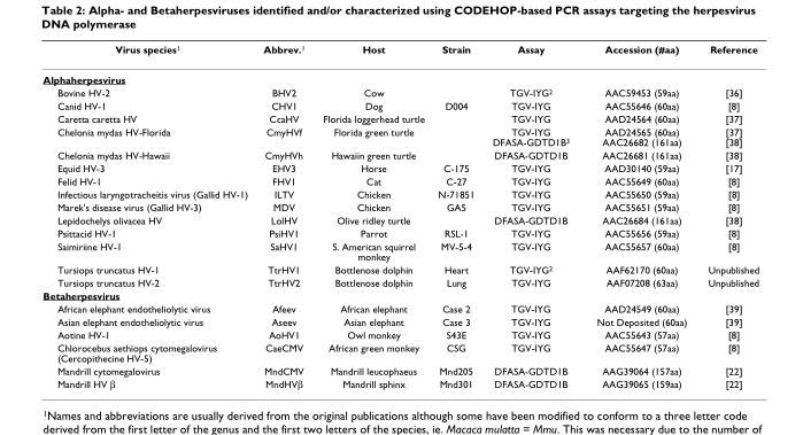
<table><thead><tr><td>Virus species<sup>1</sup></td><td>Abbrev.<sup>1</sup></td><td>Host</td><td>Strain</td><td>Assay</td><td>Accession (#aa)</td><td>Reference</td></tr></thead><tbody><tr><td colspan="7">Alphaherpesvirus</td></tr><tr><td>Bovine HV-2</td><td>BHV2</td><td>Cow</td><td></td><td>TGV-IYG<sup>2</sup></td><td>AAC59453 (59aa)</td><td>[36]</td></tr><tr><td>Canid HV-1</td><td>CHV1</td><td>Dog</td><td>D004</td><td>TGV-IYG</td><td>AAC55646 (60aa)</td><td>[8]</td></tr><tr><td>Caretta caretta HV</td><td>CcaHV</td><td>Florida loggerhead turtle</td><td></td><td>TGV-IYG</td><td>AAD24564 (60aa)</td><td>[37]</td></tr><tr><td>Chelonia mydas HV-Florida</td><td>CmyHVf</td><td>Florida green turtle</td><td></td><td>TGV-IYG DFASA-GDTD1B<sup>3</sup></td><td>AAD24565 (60aa) AAC26682 (161aa)</td><td>[37] [38]</td></tr><tr><td>Chelonia mydas HV-Hawaii</td><td>CmyHVh</td><td>Hawaiin green turtle</td><td></td><td>DFASA-GDTD1B</td><td>AAC26681 (161aa)</td><td>[38]</td></tr><tr><td>Equid HV-3</td><td>EHV3</td><td>Horse</td><td>C-175</td><td>TGV-IYG</td><td>AAD30140 (59aa)</td><td>[17]</td></tr><tr><td>Felid HV-1</td><td>FHV1</td><td>Cat</td><td>C-27</td><td>TGV-IYG</td><td>AAC55649 (60aa)</td><td>[8]</td></tr><tr><td>Infectious laryngotracheitis virus (Gallid HV-1)</td><td>ILTV</td><td>Chicken</td><td>N-71851</td><td>TGV-IYG</td><td>AAC55650 (59aa)</td><td>[8]</td></tr><tr><td>Marek&#x27;s disease virus (Gallid HV-3)</td><td>MDV</td><td>Chicken</td><td>GA5</td><td>TGV-IYG</td><td>AAC55651 (59aa)</td><td>[8]</td></tr><tr><td>Lepidochelys olivacea HV</td><td>LolHV</td><td>Olive ridley turtle</td><td></td><td>DFASA-GDTD1B</td><td>AAC26684 (161aa)</td><td>[38]</td></tr><tr><td>Psittacid HV-1</td><td>PsiHV1</td><td>Parrot</td><td>RSL-1</td><td>TGV-IYG</td><td>AAC55656 (59aa)</td><td>[8]</td></tr><tr><td>Saimiriine HV-1</td><td>SaHV1</td><td>S. American squirrel monkey</td><td>MV-5-4</td><td>TGV-IYG</td><td>AAC55657 (60aa)</td><td>[8]</td></tr><tr><td>Tursiops truncatus HV-1</td><td>TtrHV1</td><td>Bottlenose dolphin</td><td>Heart</td><td>TGV-IYG<sup>2</sup></td><td>AAF62170 (60aa)</td><td>Unpublished</td></tr><tr><td>Tursiops truncatus HV-2</td><td>TtrHV2</td><td>Bottlenose dolphin</td><td>Lung</td><td>TGV-IYG</td><td>AAF07208 (63aa)</td><td>Unpublished</td></tr><tr><td colspan="7">Betaherpesvirus</td></tr><tr><td>African elephant endotheliolytic virus</td><td>Afeev</td><td>African elephant</td><td>Case 2</td><td>TGV-IYG</td><td>AAD24549 (60aa)</td><td>[39]</td></tr><tr><td>Asian elephant endotheliolytic virus</td><td>Aseev</td><td>Asian elephant</td><td>Case 3</td><td>TGV-IYG</td><td>Not Deposited (60aa)</td><td>[39]</td></tr><tr><td>Aotine HV-1</td><td>AoHV1</td><td>Owl monkey</td><td>S43E</td><td>TGV-IYG</td><td>AAC55643 (57aa)</td><td>[8]</td></tr><tr><td>Chlorocebus aethiops cytomegalovirus (Cercopithecine HV-5)</td><td>CaeCMV</td><td>African green monkey</td><td>CSG</td><td>TGV-IYG</td><td>AAC55647 (57aa)</td><td>[8]</td></tr><tr><td>Mandrill cytomegalovirus</td><td>MndCMV</td><td>Mandrill leucophaeus</td><td>Mnd205</td><td>DFASA-GDTD1B</td><td>AAG39064 (157aa)</td><td>[22]</td></tr><tr><td>Mandrill HV β</td><td>MndHVβ</td><td>Mandrill sphinx</td><td>Mnd301</td><td>DFASA-GDTD1B</td><td>AAG39065 (159aa)</td><td>[22]</td></tr></tbody></table>